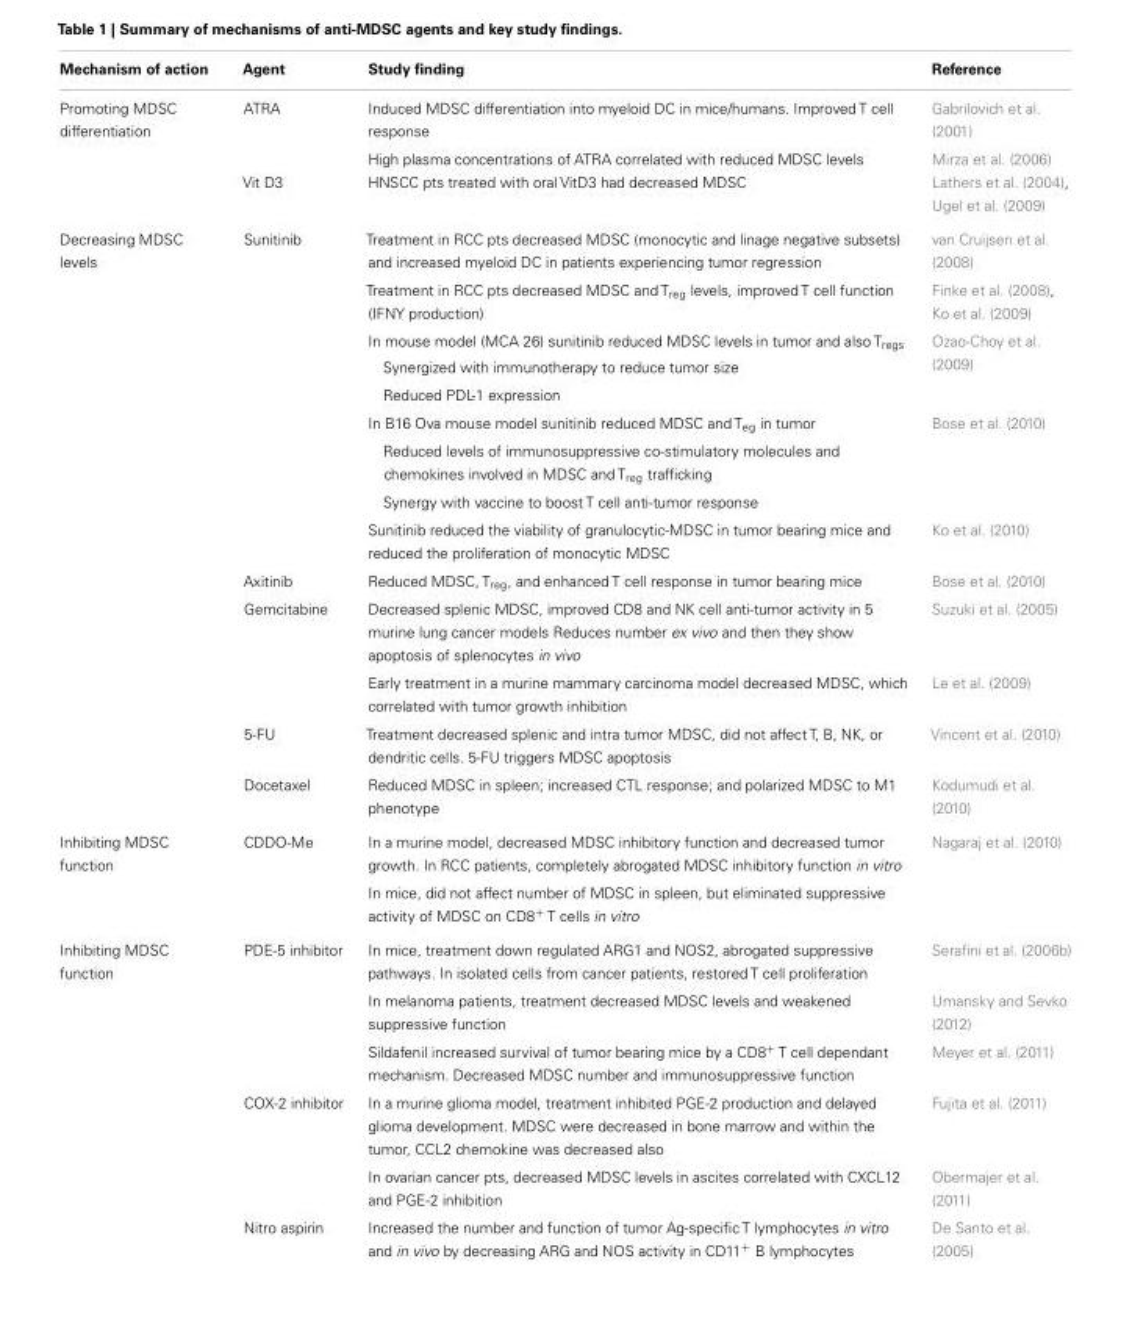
<table><thead><tr><td>Mechanism of action</td><td>Agent</td><td>Study finding</td><td>Reference</td></tr></thead><tbody><tr><td rowspan="3">Promoting MDSC differentiation</td><td>ATRA</td><td>Induced MDSC differentiation into myeloid DC in mice/humans. Improved T cell response</td><td>Gabrilovich et al. (2001)</td></tr><tr><td></td><td>High plasma concentrations of ATRA correlated with reduced MDSC levels</td><td>Mirza et al. (2006)</td></tr><tr><td>Vit D3</td><td>HNSCC pts treated with oral VitD3 had decreased MDSC</td><td>Lathers et al. (2004), Ugel et al. (2009)</td></tr><tr><td rowspan="10">Decreasing MDSC levels</td><td>Sunitinib</td><td>Treatment in RCC pts decreased MDSC (monocytic and linage negative subsets) and increased myeloid DC in patients experiencing tumor regression</td><td>van Cruijsen et al. (2008)</td></tr><tr><td></td><td>Treatment in RCC pts decreased MDSC and T<sub>reg</sub> levels, improved T cell function (IFNY production)</td><td>Finke et al. (2008), Ko et al. (2009)</td></tr><tr><td></td><td>In mouse model (MCA 26) sunitinib reduced MDSC levels in tumor and also T<sub>regs</sub> Synergized with immunotherapy to reduce tumor size Reduced PDL-1 expression</td><td>Ozao-Choy et al. (2009)</td></tr><tr><td></td><td>In B16 Ova mouse model sunitinib reduced MDSC and T<sub>eg</sub> in tumor Reduced levels of immunosuppressive co-stimulatory molecules and chemokines involved in MDSC and T<sub>reg</sub> trafficking Synergy with vaccine to boost T cell anti-tumor response</td><td>Bose et al. (2010)</td></tr><tr><td></td><td>Sunitinib reduced the viability of granulocytic-MDSC in tumor bearing mice and reduced the proliferation of monocytic MDSC</td><td>Ko et al. (2010)</td></tr><tr><td>Axitinib</td><td>Reduced MDSC, T<sub>reg</sub>, and enhanced T cell response in tumor bearing mice</td><td>Bose et al. (2010)</td></tr><tr><td>Gemcitabine</td><td>Decreased splenic MDSC, improved CD8 and NK cell anti-tumor activity in 5 murine lung cancer models Reduces number ex vivo and then they show apoptosis of splenocytes in vivo</td><td>Suzuki et al. (2005)</td></tr><tr><td></td><td>Early treatment in a murine mammary carcinoma model decreased MDSC, which correlated with tumor growth inhibition</td><td>Le et al. (2009)</td></tr><tr><td>5-FU</td><td>Treatment decreased splenic and intra tumor MDSC, did not affect T, B, NK, or dendritic cells. 5-FU triggers MDSC apoptosis</td><td>Vincent et al. (2010)</td></tr><tr><td>Docetaxel</td><td>Reduced MDSC in spleen; increased CTL response; and polarized MDSC to M1 phenotype</td><td>Kodumudi et al. (2010)</td></tr><tr><td rowspan="2">Inhibiting MDSC function</td><td>CDDO-Me</td><td>In a murine model, decreased MDSC inhibitory function and decreased tumor growth. In RCC patients, completely abrogated MDSC inhibitory function in vitro</td><td>Nagaraj et al. (2010)</td></tr><tr><td></td><td>In mice, did not affect number of MDSC in spleen, but eliminated suppressive activity of MDSC on CD8<sup>+</sup> T cells in vitro</td><td></td></tr><tr><td rowspan="6">Inhibiting MDSC function</td><td>PDE-5 inhibitor</td><td>In mice, treatment down regulated ARG1 and NOS2, abrogated suppressive pathways. In isolated cells from cancer patients, restored T cell proliferation</td><td>Serafini et al. (2006b)</td></tr><tr><td></td><td>In melanoma patients, treatment decreased MDSC levels and weakened suppressive function</td><td>Umansky and Sevko (2012)</td></tr><tr><td></td><td>Sildafenil increased survival of tumor bearing mice by a CD8<sup>+</sup> T cell dependant mechanism. Decreased MDSC number and immunosuppressive function</td><td>Meyer et al. (2011)</td></tr><tr><td>COX-2 inhibitor</td><td>In a murine glioma model, treatment inhibited PGE-2 production and delayed glioma development. MDSC were decreased in bone marrow and within the tumor, CCL2 chemokine was decreased also</td><td>Fujita et al. (2011)</td></tr><tr><td></td><td>In ovarian cancer pts, decreased MDSC levels in ascites correlated with CXCL12 and PGE-2 inhibition</td><td>Obermajer et al. (2011)</td></tr><tr><td>Nitro aspirin</td><td>Increased the number and function of tumor Ag-specific T lymphocytes in vitro and in vivo by decreasing ARG and NOS activity in CD11<sup>+</sup> B lymphocytes</td><td>De Santo et al. (2005)</td></tr></tbody></table>